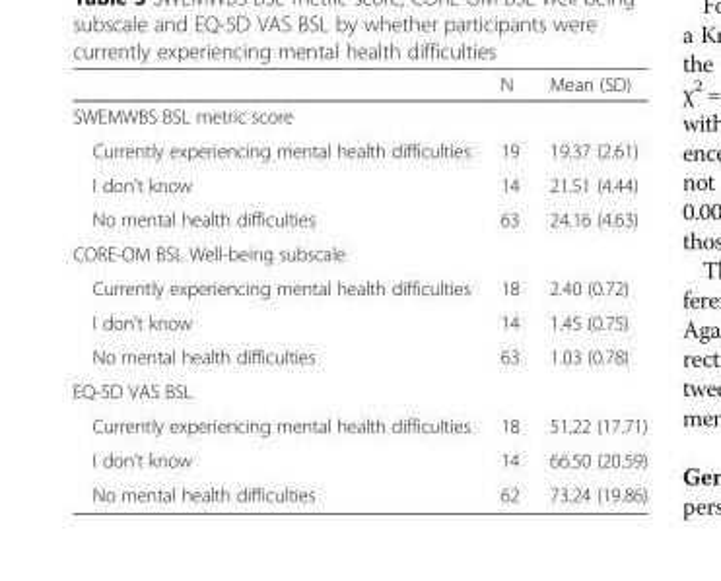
<table><thead><tr><td></td><td>N</td><td>Mean (SD)</td></tr></thead><tbody><tr><td colspan="3">SWEMWBS BSL metric score</td></tr><tr><td>Currently experiencing mental health difficulties</td><td>19</td><td>19.37 (2.61)</td></tr><tr><td>I don’t know</td><td>14</td><td>21.51 (4.44)</td></tr><tr><td>No mental health difficulties</td><td>63</td><td>24.16 (4.63)</td></tr><tr><td colspan="3">CORE-OM BSL Well-being subscale</td></tr><tr><td>Currently experiencing mental health difficulties</td><td>18</td><td>2.40 (0.72)</td></tr><tr><td>I don’t know</td><td>14</td><td>1.45 (0.75)</td></tr><tr><td>No mental health difficulties</td><td>63</td><td>1.03 (0.78)</td></tr><tr><td colspan="3">EQ-5D VAS BSL</td></tr><tr><td>Currently experiencing mental health difficulties</td><td>18</td><td>51.22 (17.71)</td></tr><tr><td>I don’t know</td><td>14</td><td>66.50 (20.59)</td></tr><tr><td>No mental health difficulties</td><td>62</td><td>73.24 (19.86)</td></tr></tbody></table>